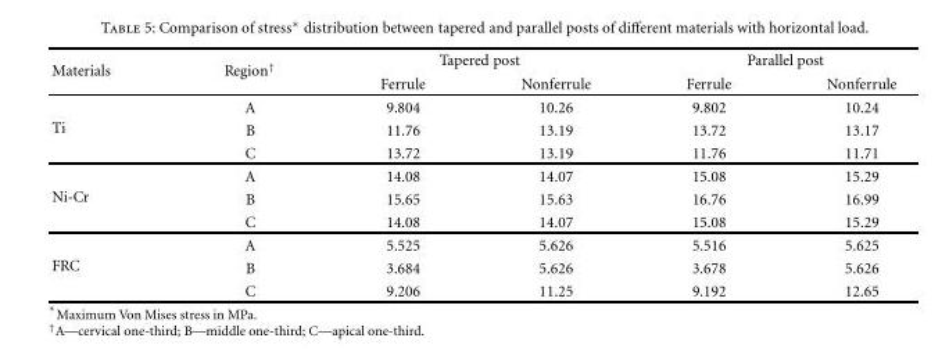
<table><thead><tr><td rowspan="2">Materials</td><td rowspan="2">Region<sup>†</sup></td><td colspan="2">Tapered post</td><td colspan="2">Parallel post</td></tr><tr><td>Ferrule</td><td>Nonferrule</td><td>Ferrule</td><td>Nonferrule</td></tr></thead><tbody><tr><td rowspan="3">Ti</td><td>A</td><td>9.804</td><td>10.26</td><td>9.802</td><td>10.24</td></tr><tr><td>B</td><td>11.76</td><td>13.19</td><td>13.72</td><td>13.17</td></tr><tr><td>C</td><td>13.72</td><td>13.19</td><td>11.76</td><td>11.71</td></tr><tr><td rowspan="3">Ni-Cr</td><td>A</td><td>14.08</td><td>14.07</td><td>15.08</td><td>15.29</td></tr><tr><td>B</td><td>15.65</td><td>15.63</td><td>16.76</td><td>16.99</td></tr><tr><td>C</td><td>14.08</td><td>14.07</td><td>15.08</td><td>15.29</td></tr><tr><td rowspan="3">FRC</td><td>A</td><td>5.525</td><td>5.626</td><td>5.516</td><td>5.625</td></tr><tr><td>B</td><td>3.684</td><td>5.626</td><td>3.678</td><td>5.626</td></tr><tr><td>C</td><td>9.206</td><td>11.25</td><td>9.192</td><td>12.65</td></tr></tbody></table>